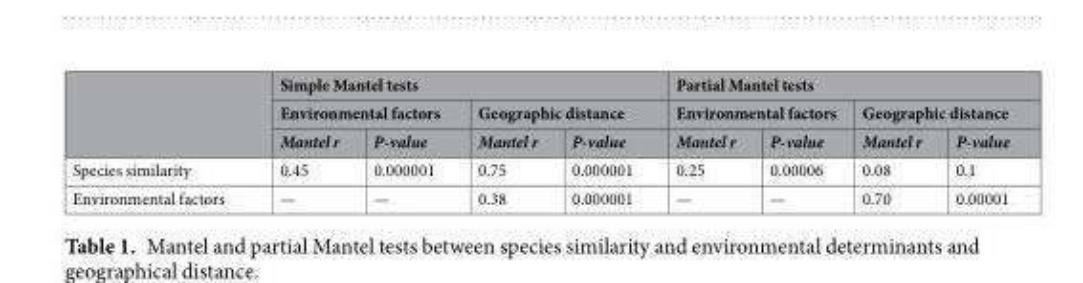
<table><thead><tr><td rowspan="3"></td><td colspan="4">Simple Mantel tests</td><td colspan="4">Partial Mantel tests</td></tr><tr><td colspan="2">Environmental factors</td><td colspan="2">Geographic distance</td><td colspan="2">Environmental factors</td><td colspan="2">Geographic distance</td></tr><tr><td>Mantel r</td><td>P-value</td><td>Mantel r</td><td>P-value</td><td>Mantel r</td><td>P-value</td><td>Mantel r</td><td>P-value</td></tr></thead><tbody><tr><td>Species similarity</td><td>0.45</td><td>0.000001</td><td>0.75</td><td>0.000001</td><td>0.25</td><td>0.00006</td><td>0.08</td><td>0.1</td></tr><tr><td>Environmental factors</td><td>—</td><td>—</td><td>0.38</td><td>0.000001</td><td>—</td><td>—</td><td>0.70</td><td>0.00001</td></tr></tbody></table>